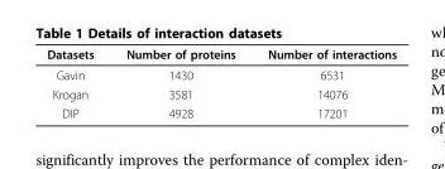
<table><thead><tr><td>Datasets</td><td>Number of proteins</td><td>Number of interactions</td></tr></thead><tbody><tr><td>Gavin</td><td>1430</td><td>6531</td></tr><tr><td>Krogan</td><td>3581</td><td>14076</td></tr><tr><td>DIP</td><td>4928</td><td>17201</td></tr></tbody></table>